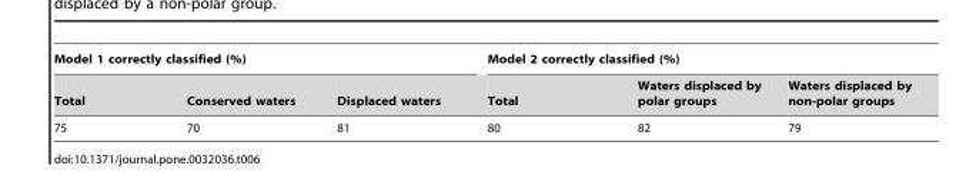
<table><thead><tr><td colspan="3">Model 1 correctly classified (%)</td><td colspan="3">Model 2 correctly classified (%)</td></tr><tr><td>Total</td><td>Conserved waters</td><td>Displaced waters</td><td>Total</td><td>Waters displaced by polar groups</td><td>Waters displaced by non-polar groups</td></tr></thead><tbody><tr><td>75</td><td>70</td><td>81</td><td>80</td><td>82</td><td>79</td></tr></tbody></table>